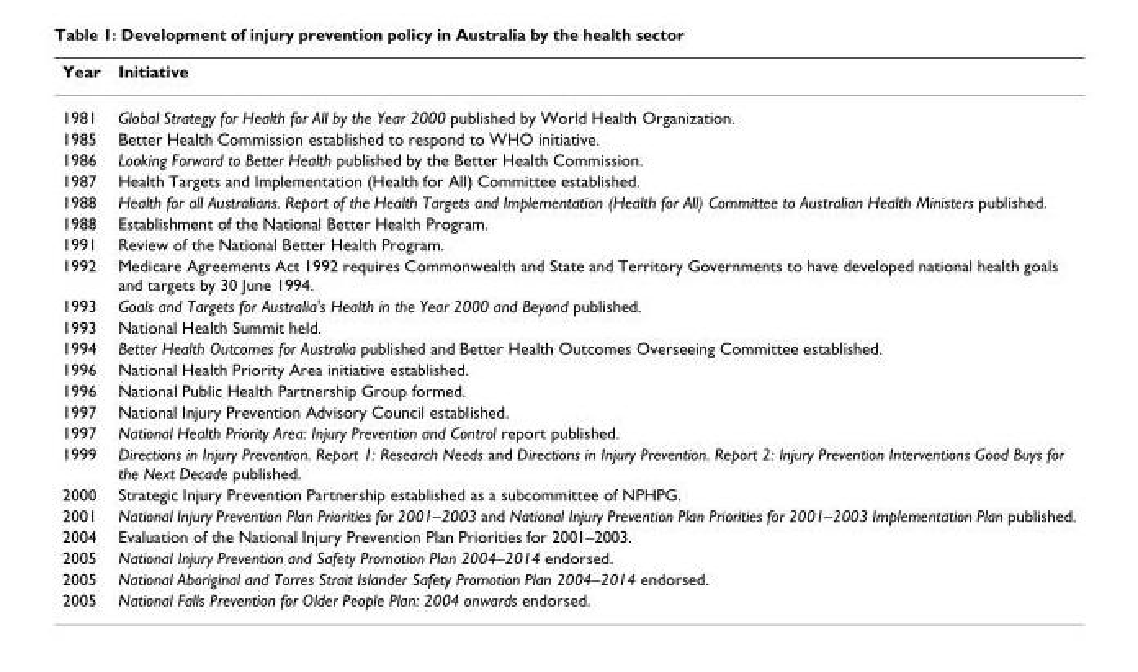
<table><thead><tr><td>Year</td><td>Initiative</td></tr></thead><tbody><tr><td>1981</td><td>Global Strategy for Health for All by the Year 2000 published by World Health Organization.</td></tr><tr><td>1985</td><td>Better Health Commission established to respond to WHO initiative.</td></tr><tr><td>1986</td><td>Looking Forward to Better Health published by the Better Health Commission.</td></tr><tr><td>1987</td><td>Health Targets and Implementation (Health for All) Committee established.</td></tr><tr><td>1988</td><td>Health for all Australians. Report of the Health Targets and Implementation (Health for All) Committee to Australian Health Ministers published.</td></tr><tr><td>1988</td><td>Establishment of the National Better Health Program.</td></tr><tr><td>1991</td><td>Review of the National Better Health Program.</td></tr><tr><td>1992</td><td>Medicare Agreements Act 1992 requires Commonwealth and State and Territory Governments to have developed national health goals and targets by 30 June 1994.</td></tr><tr><td>1993</td><td>Goals and Targets for Australia&#x27;s Health in the Year 2000 and Beyond published.</td></tr><tr><td>1993</td><td>National Health Summit held.</td></tr><tr><td>1994</td><td>Better Health Outcomes for Australia published and Better Health Outcomes Overseeing Committee established.</td></tr><tr><td>1996</td><td>National Health Priority Area initiative established.</td></tr><tr><td>1996</td><td>National Public Health Partnership Group formed.</td></tr><tr><td>1997</td><td>National Injury Prevention Advisory Council established.</td></tr><tr><td>1997</td><td>National Health Priority Area: Injury Prevention and Control report published.</td></tr><tr><td>1999</td><td>Directions in Injury Prevention. Report 1: Research Needs and Directions in Injury Prevention. Report 2: Injury Prevention Interventions Good Buys for the Next Decade published.</td></tr><tr><td>2000</td><td>Strategic Injury Prevention Partnership established as a subcommittee of NPHPG.</td></tr><tr><td>2001</td><td>National Injury Prevention Plan Priorities for 2001–2003 and National Injury Prevention Plan Priorities for 2001–2003 Implementation Plan published.</td></tr><tr><td>2004</td><td>Evaluation of the National Injury Prevention Plan Priorities for 2001–2003.</td></tr><tr><td>2005</td><td>National Injury Prevention and Safety Promotion Plan 2004–2014 endorsed.</td></tr><tr><td>2005</td><td>National Aboriginal and Torres Strait Islander Safety Promotion Plan 2004–2014 endorsed.</td></tr><tr><td>2005</td><td>National Falls Prevention for Older People Plan: 2004 onwards endorsed.</td></tr></tbody></table>